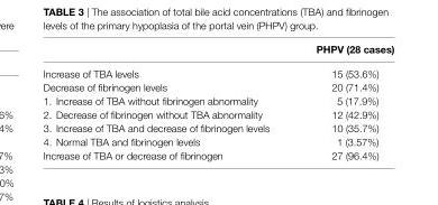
<table><thead><tr><td></td><td>PhPV (28 cases)</td></tr></thead><tbody><tr><td>Increase of TBA levels Decrease of fibrinogen levels</td><td>15 (53.6%) 20 (71.4%)</td></tr><tr><td>1. Increase of TBA without fibrinogen abnormality 2. Decrease of fibrinogen without TBA abnormality 3. Increase of TBA and decrease of fibrinogen levels 4. Normal TBA and fibrinogen levels</td><td>5 (17.9%) 12 (42.9%) 10 (35.7%) 1 (3.57%)</td></tr><tr><td>Increase of TBA or decrease of fibrinogen</td><td>27 (96.4%)</td></tr></tbody></table>